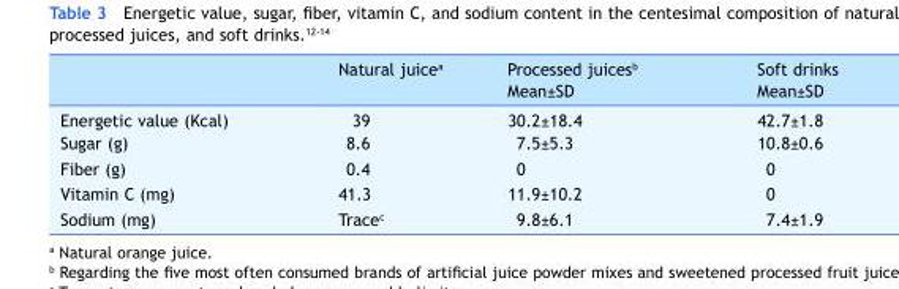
<table><thead><tr><td></td><td>Natural juice<sup>a</sup></td><td>Processed juices<sup>b</sup> Mean±SD</td><td>Soft drinks Mean±SD</td></tr></thead><tbody><tr><td>Energetic value (Kcal)</td><td>39</td><td>30.2±18.4</td><td>42.7±1.8</td></tr><tr><td>Sugar (g)</td><td>8.6</td><td>7.5±5.3</td><td>10.8±0.6</td></tr><tr><td>Fiber (g)</td><td>0.4</td><td>0</td><td>0</td></tr><tr><td>Vitamin C (mg)</td><td>41.3</td><td>11.9±10.2</td><td>0</td></tr><tr><td>Sodium (mg)</td><td>Trace<sup>c</sup></td><td>9.8±6.1</td><td>7.4±1.9</td></tr></tbody></table>